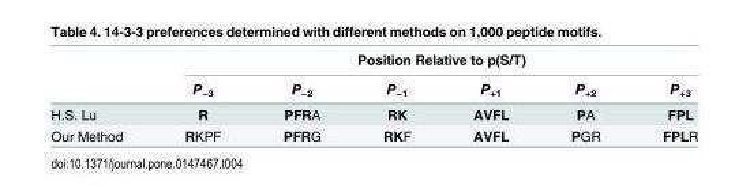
<table><thead><tr><td rowspan="2"></td><td colspan="6">Position Relative to p(S/T)</td></tr><tr><td>P<sub>−3</sub></td><td>P<sub>−2</sub></td><td>P<sub>−1</sub></td><td>P<sub>+1</sub></td><td>P<sub>+2</sub></td><td>P<sub>+3</sub></td></tr></thead><tbody><tr><td>H.S. Lu</td><td>R</td><td>PFRA</td><td>RK</td><td>AVFL</td><td>PA</td><td>FPL</td></tr><tr><td>Our Method</td><td>RKPF</td><td>PFRG</td><td>RKF</td><td>AVFL</td><td>PGR</td><td>FPLR</td></tr></tbody></table>